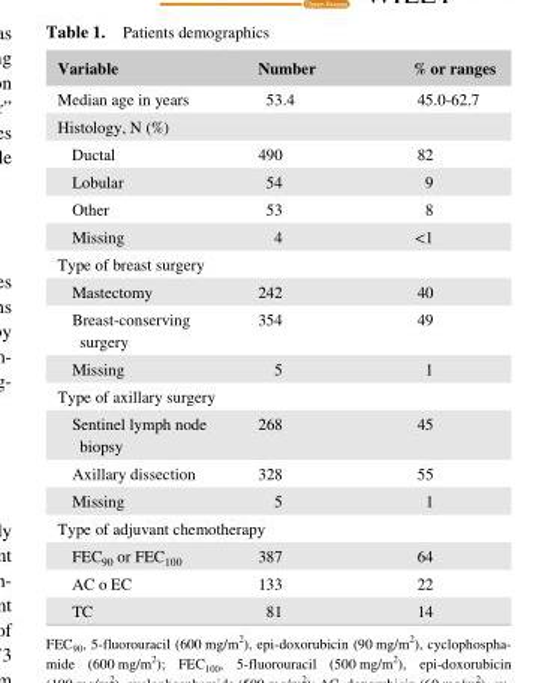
<table><thead><tr><td>Variable</td><td>Number</td><td>% or ranges</td></tr></thead><tbody><tr><td>Median age in years</td><td>53.4</td><td>45.0- 62.7</td></tr><tr><td colspan="3">Histology, N (%)</td></tr><tr><td>Ductal</td><td>490</td><td>82</td></tr><tr><td>Lobular</td><td>54</td><td>9</td></tr><tr><td>Other</td><td>53</td><td>8</td></tr><tr><td>Missing</td><td>4</td><td>&lt;1</td></tr><tr><td colspan="3">Type of breast surgery</td></tr><tr><td>Mastectomy</td><td>242</td><td>40</td></tr><tr><td>Breast- conserving surgery</td><td>354</td><td>49</td></tr><tr><td>Missing</td><td>5</td><td>1</td></tr><tr><td colspan="3">Type of axillary surgery</td></tr><tr><td>Sentinel lymph node biopsy</td><td>268</td><td>45</td></tr><tr><td>Axillary dissection</td><td>328</td><td>55</td></tr><tr><td>Missing</td><td>5</td><td>1</td></tr><tr><td colspan="3">Type of adjuvant chemotherapy</td></tr><tr><td>FEC<sub>90</sub> or FEC<sub>100</sub></td><td>387</td><td>64</td></tr><tr><td>AC o EC</td><td>133</td><td>22</td></tr><tr><td>TC</td><td>81</td><td>14</td></tr></tbody></table>